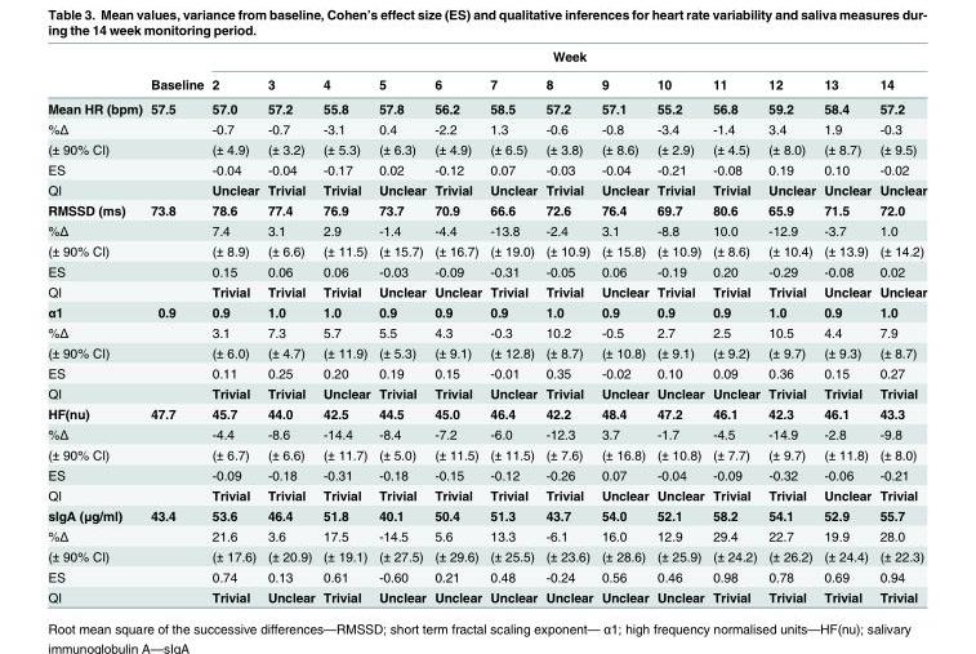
<table><thead><tr><td rowspan="2"></td><td rowspan="2">Baseline</td><td colspan="13">Week</td></tr><tr><td>2</td><td>3</td><td>4</td><td>5</td><td>6</td><td>7</td><td>8</td><td>9</td><td>10</td><td>11</td><td>12</td><td>13</td><td>14</td></tr></thead><tbody><tr><td>Mean HR (bpm)</td><td>57.5</td><td>57.0</td><td>57.2</td><td>55.8</td><td>57.8</td><td>56.2</td><td>58.5</td><td>57.2</td><td>57.1</td><td>55.2</td><td>56.8</td><td>59.2</td><td>58.4</td><td>57.2</td></tr><tr><td>%Δ</td><td></td><td>-0.7</td><td>-0.7</td><td>-3.1</td><td>0.4</td><td>-2.2</td><td>1.3</td><td>-0.6</td><td>-0.8</td><td>-3.4</td><td>-1.4</td><td>3.4</td><td>1.9</td><td>-0.3</td></tr><tr><td>(± 90% CI)</td><td></td><td>(± 4.9)</td><td>(± 3.2)</td><td>(± 5.3)</td><td>(± 6.3)</td><td>(± 4.9)</td><td>(± 6.5)</td><td>(± 3.8)</td><td>(± 8.6)</td><td>(± 2.9)</td><td>(± 4.5)</td><td>(± 8.0)</td><td>(± 8.7)</td><td>(± 9.5)</td></tr><tr><td>ES</td><td></td><td>-0.04</td><td>-0.04</td><td>-0.17</td><td>0.02</td><td>-0.12</td><td>0.07</td><td>-0.03</td><td>-0.04</td><td>-0.21</td><td>-0.08</td><td>0.19</td><td>0.10</td><td>-0.02</td></tr><tr><td>QI</td><td></td><td>Unclear</td><td>Trivial</td><td>Trivial</td><td>Unclear</td><td>Trivial</td><td>Unclear</td><td>Trivial</td><td>Unclear</td><td>Trivial</td><td>Trivial</td><td>Unclear</td><td>Unclear</td><td>Unclear</td></tr><tr><td>RMSSD (ms)</td><td>73.8</td><td>78.6</td><td>77.4</td><td>76.9</td><td>73.7</td><td>70.9</td><td>66.6</td><td>72.6</td><td>76.4</td><td>69.7</td><td>80.6</td><td>65.9</td><td>71.5</td><td>72.0</td></tr><tr><td>%Δ</td><td></td><td>7.4</td><td>3.1</td><td>2.9</td><td>-1.4</td><td>-4.4</td><td>-13.8</td><td>-2.4</td><td>3.1</td><td>-8.8</td><td>10.0</td><td>-12.9</td><td>-3.7</td><td>1.0</td></tr><tr><td>(± 90% CI)</td><td></td><td>(± 8.9)</td><td>(± 6.6)</td><td>(± 11.5)</td><td>(± 15.7)</td><td>(± 16.7)</td><td>(± 19.0)</td><td>(± 10.9)</td><td>(± 15.8)</td><td>(± 10.9)</td><td>(± 8.6)</td><td>(± 10.4)</td><td>(± 13.9)</td><td>(± 14.2)</td></tr><tr><td>ES</td><td></td><td>0.15</td><td>0.06</td><td>0.06</td><td>-0.03</td><td>-0.09</td><td>-0.31</td><td>-0.05</td><td>0.06</td><td>-0.19</td><td>0.20</td><td>-0.29</td><td>-0.08</td><td>0.02</td></tr><tr><td>QI</td><td></td><td>Trivial</td><td>Trivial</td><td>Trivial</td><td>Unclear</td><td>Unclear</td><td>Trivial</td><td>Trivial</td><td>Unclear</td><td>Trivial</td><td>Trivial</td><td>Trivial</td><td>Unclear</td><td>Unclear</td></tr><tr><td>α1</td><td>0.9</td><td>0.9</td><td>1.0</td><td>1.0</td><td>0.9</td><td>0.9</td><td>0.9</td><td>1.0</td><td>0.9</td><td>0.9</td><td>0.9</td><td>1.0</td><td>0.9</td><td>1.0</td></tr><tr><td>%Δ</td><td></td><td>3.1</td><td>7.3</td><td>5.7</td><td>5.5</td><td>4.3</td><td>-0.3</td><td>10.2</td><td>-0.5</td><td>2.7</td><td>2.5</td><td>10.5</td><td>4.4</td><td>7.9</td></tr><tr><td>(± 90% CI)</td><td></td><td>(± 6.0)</td><td>(± 4.7)</td><td>(± 11.9)</td><td>(± 5.3)</td><td>(± 9.1)</td><td>(± 12.8)</td><td>(± 8.7)</td><td>(± 10.8)</td><td>(± 9.1)</td><td>(± 9.2)</td><td>(± 9.7)</td><td>(± 9.3)</td><td>(± 8.7)</td></tr><tr><td>ES</td><td></td><td>0.11</td><td>0.25</td><td>0.20</td><td>0.19</td><td>0.15</td><td>-0.01</td><td>0.35</td><td>-0.02</td><td>0.10</td><td>0.09</td><td>0.36</td><td>0.15</td><td>0.27</td></tr><tr><td>QI</td><td></td><td>Trivial</td><td>Trivial</td><td>Unclear</td><td>Trivial</td><td>Trivial</td><td>Unclear</td><td>Trivial</td><td>Unclear</td><td>Unclear</td><td>Unclear</td><td>Trivial</td><td>Trivial</td><td>Trivial</td></tr><tr><td>HF(nu)</td><td>47.7</td><td>45.7</td><td>44.0</td><td>42.5</td><td>44.5</td><td>45.0</td><td>46.4</td><td>42.2</td><td>48.4</td><td>47.2</td><td>46.1</td><td>42.3</td><td>46.1</td><td>43.3</td></tr><tr><td>%Δ</td><td></td><td>-4.4</td><td>-8.6</td><td>-14.4</td><td>-8.4</td><td>-7.2</td><td>-6.0</td><td>-12.3</td><td>3.7</td><td>-1.7</td><td>-4.5</td><td>-14.9</td><td>-2.8</td><td>-9.8</td></tr><tr><td>(± 90% CI)</td><td></td><td>(± 6.7)</td><td>(± 6.6)</td><td>(± 11.7)</td><td>(± 5.0)</td><td>(± 11.5)</td><td>(± 11.5)</td><td>(± 7.6)</td><td>(± 16.8)</td><td>(± 10.8)</td><td>(± 7.7)</td><td>(± 9.7)</td><td>(± 11.8)</td><td>(± 8.0)</td></tr><tr><td>ES</td><td></td><td>-0.09</td><td>-0.18</td><td>-0.31</td><td>-0.18</td><td>-0.15</td><td>-0.12</td><td>-0.26</td><td>0.07</td><td>-0.04</td><td>-0.09</td><td>-0.32</td><td>-0.06</td><td>-0.21</td></tr><tr><td>QI</td><td></td><td>Trivial</td><td>Trivial</td><td>Trivial</td><td>Trivial</td><td>Trivial</td><td>Trivial</td><td>Trivial</td><td>Unclear</td><td>Unclear</td><td>Trivial</td><td>Trivial</td><td>Unclear</td><td>Trivial</td></tr><tr><td>sIgA (μg/ml)</td><td>43.4</td><td>53.6</td><td>46.4</td><td>51.8</td><td>40.1</td><td>50.4</td><td>51.3</td><td>43.7</td><td>54.0</td><td>52.1</td><td>58.2</td><td>54.1</td><td>52.9</td><td>55.7</td></tr><tr><td>%Δ</td><td></td><td>21.6</td><td>3.6</td><td>17.5</td><td>-14.5</td><td>5.6</td><td>13.3</td><td>-6.1</td><td>16.0</td><td>12.9</td><td>29.4</td><td>22.7</td><td>19.9</td><td>28.0</td></tr><tr><td>(± 90% CI)</td><td></td><td>(± 17.6)</td><td>(± 20.9)</td><td>(± 19.1)</td><td>(± 27.5)</td><td>(± 29.6)</td><td>(± 25.5)</td><td>(± 23.6)</td><td>(± 28.6)</td><td>(± 25.9)</td><td>(± 24.2)</td><td>(± 26.2)</td><td>(± 24.4)</td><td>(± 22.3)</td></tr><tr><td>ES</td><td></td><td>0.74</td><td>0.13</td><td>0.61</td><td>-0.60</td><td>0.21</td><td>0.48</td><td>-0.24</td><td>0.56</td><td>0.46</td><td>0.98</td><td>0.78</td><td>0.69</td><td>0.94</td></tr><tr><td>QI</td><td></td><td>Trivial</td><td>Unclear</td><td>Trivial</td><td>Unclear</td><td>Unclear</td><td>Unclear</td><td>Unclear</td><td>Unclear</td><td>Unclear</td><td>Trivial</td><td>Trivial</td><td>Trivial</td><td>Trivial</td></tr></tbody></table>